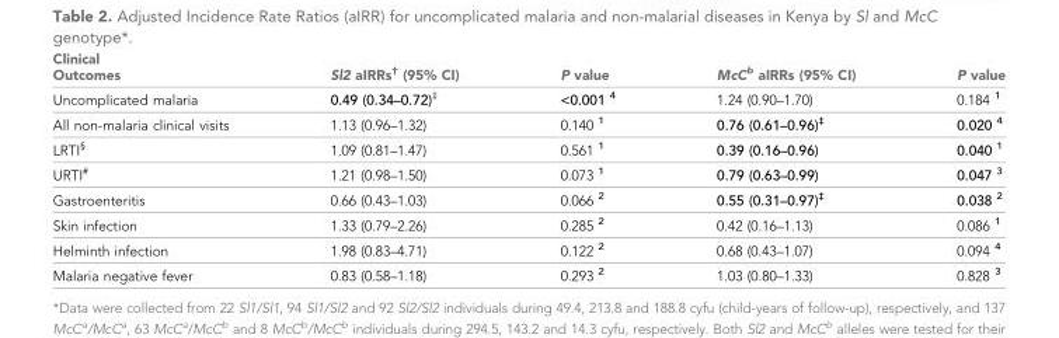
<table><thead><tr><td>Clinical Outcomes</td><td>Sl2 aIRRs<sup>†</sup> (95% CI)</td><td>P value</td><td>McC<sup>b</sup> aIRRs (95% CI)</td><td>P value</td></tr></thead><tbody><tr><td>Uncomplicated malaria</td><td>0.49 (0.34–0.72)<sup>‡</sup></td><td>&lt;0.001 <sup>4</sup></td><td>1.24 (0.90–1.70)</td><td>0.184 <sup>1</sup></td></tr><tr><td>All non-malaria clinical visits</td><td>1.13 (0.96–1.32)</td><td>0.140 <sup>1</sup></td><td>0.76 (0.61–0.96)<sup>‡</sup></td><td>0.020 <sup>4</sup></td></tr><tr><td>LRTI<sup>§</sup></td><td>1.09 (0.81–1.47)</td><td>0.561 <sup>1</sup></td><td>0.39 (0.16–0.96)</td><td>0.040 <sup>1</sup></td></tr><tr><td>URTI<sup>#</sup></td><td>1.21 (0.98–1.50)</td><td>0.073 <sup>1</sup></td><td>0.79 (0.63–0.99)</td><td>0.047 <sup>3</sup></td></tr><tr><td>Gastroenteritis</td><td>0.66 (0.43–1.03)</td><td>0.066 <sup>2</sup></td><td>0.55 (0.31–0.97)<sup>‡</sup></td><td>0.038 <sup>2</sup></td></tr><tr><td>Skin infection</td><td>1.33 (0.79–2.26)</td><td>0.285 <sup>2</sup></td><td>0.42 (0.16–1.13)</td><td>0.086 <sup>1</sup></td></tr><tr><td>Helminth infection</td><td>1.98 (0.83–4.71)</td><td>0.122 <sup>2</sup></td><td>0.68 (0.43–1.07)</td><td>0.094 <sup>4</sup></td></tr><tr><td>Malaria negative fever</td><td>0.83 (0.58–1.18)</td><td>0.293 <sup>2</sup></td><td>1.03 (0.80–1.33)</td><td>0.828 <sup>3</sup></td></tr></tbody></table>